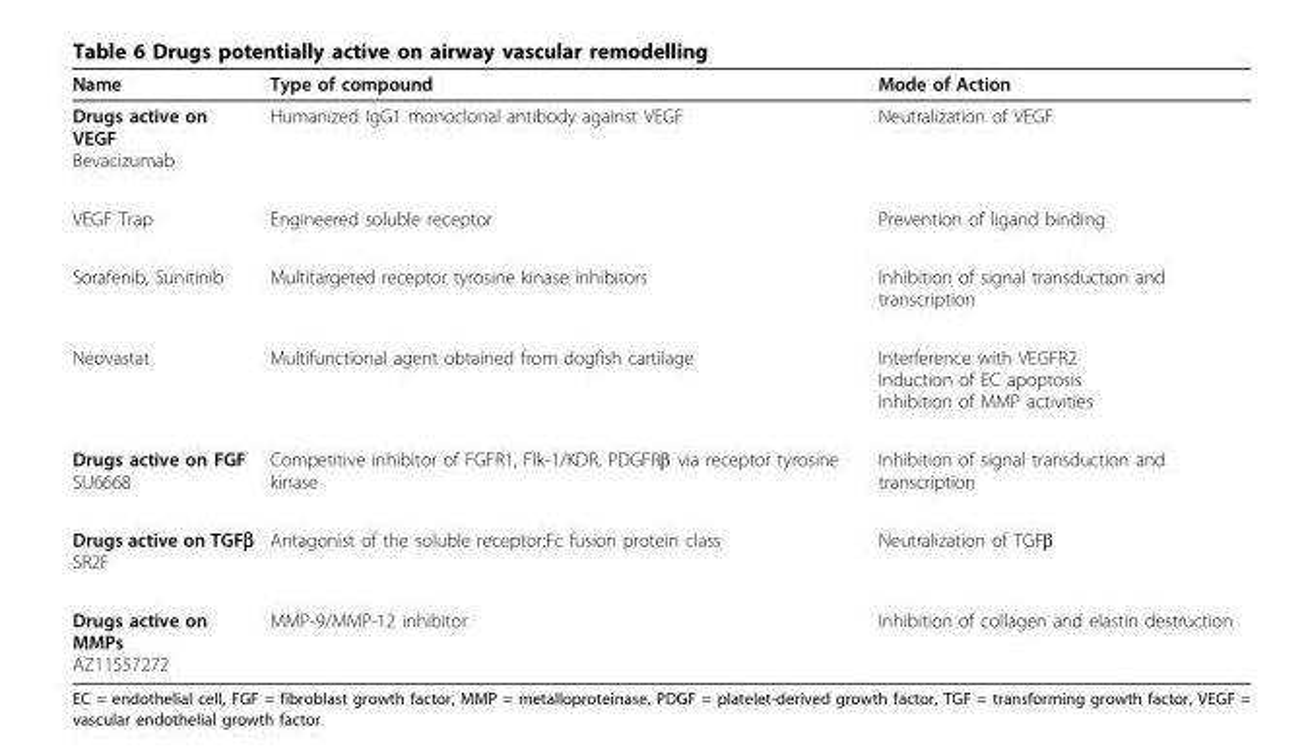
<table><thead><tr><td>Name</td><td>Type of compound</td><td>Mode of Action</td></tr></thead><tbody><tr><td>Drugs active on VEGF Bevacizumab</td><td>Humanized IgG1 monoclonal antibody against VEGF</td><td>Neutralization of VEGF</td></tr><tr><td>VEGF Trap</td><td>Engineered soluble receptor</td><td>Prevention of ligand binding</td></tr><tr><td>Sorafenib, Sunitinib</td><td>Multitargeted receptor tyrosine kinase inhibitors</td><td>Inhibition of signal transduction and transcription</td></tr><tr><td>Neovastat</td><td>Multifunctional agent obtained from dogfish cartilage</td><td>Interference with VEGFR2 Induction of EC apoptosis Inhibition of MMP activities</td></tr><tr><td>Drugs active on FGF SU6668</td><td>Competitive inhibitor of FGFR1, Flk-1/KDR, PDGFRβ via receptor tyrosine kinase</td><td>Inhibition of signal transduction and transcription</td></tr><tr><td>Drugs active on TGFβ SR2F</td><td>Antagonist of the soluble receptor:Fc fusion protein class</td><td>Neutralization of TGFβ</td></tr><tr><td>Drugs active on MMPs AZ11557272</td><td>MMP-9/MMP-12 inhibitor</td><td>Inhibition of collagen and elastin destruction</td></tr></tbody></table>